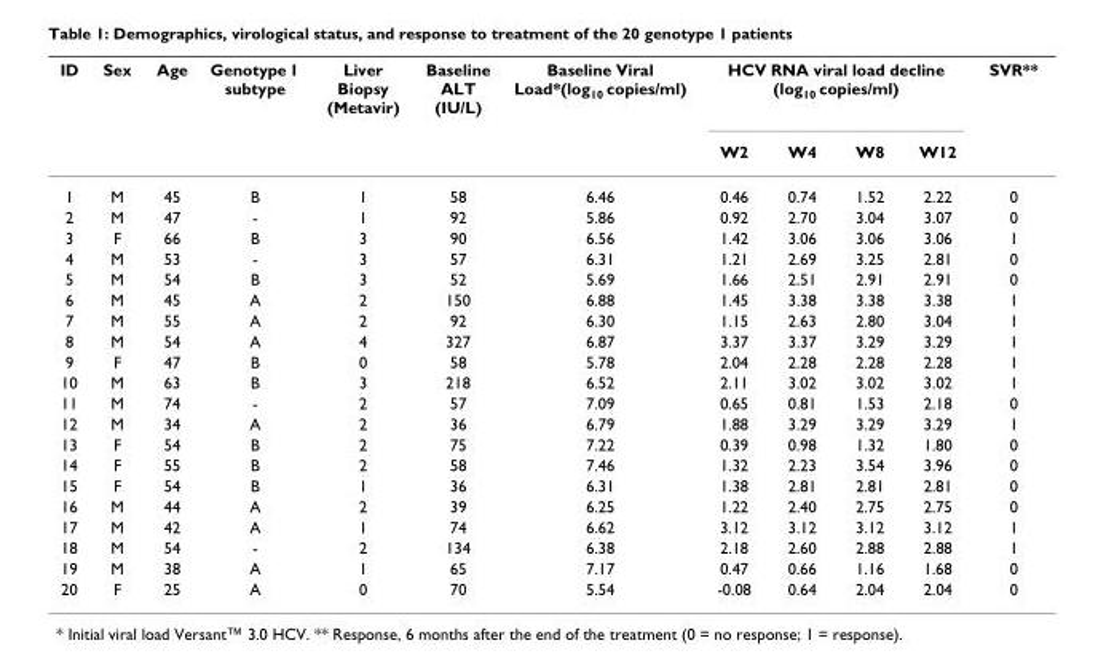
<table><thead><tr><td rowspan="2">ID</td><td rowspan="2">Sex</td><td rowspan="2">Age</td><td rowspan="2">Genotype 1 subtype</td><td rowspan="2">Liver Biopsy (Metavir)</td><td rowspan="2">Baseline ALT (IU/L)</td><td rowspan="2">Baseline Viral Load*(log10 copies/ml)</td><td colspan="4">HCV RNA viral load decline (log10 copies/ml)</td><td rowspan="2">SVR**</td></tr><tr><td>W2</td><td>W4</td><td>W8</td><td>W12</td></tr></thead><tbody><tr><td>1</td><td>M</td><td>45</td><td>B</td><td>1</td><td>58</td><td>6.46</td><td>0.46</td><td>0.74</td><td>1.52</td><td>2.22</td><td>0</td></tr><tr><td>2</td><td>M</td><td>47</td><td>-</td><td>1</td><td>92</td><td>5.86</td><td>0.92</td><td>2.70</td><td>3.04</td><td>3.07</td><td>0</td></tr><tr><td>3</td><td>F</td><td>66</td><td>B</td><td>3</td><td>90</td><td>6.56</td><td>1.42</td><td>3.06</td><td>3.06</td><td>3.06</td><td>1</td></tr><tr><td>4</td><td>M</td><td>53</td><td>-</td><td>3</td><td>57</td><td>6.31</td><td>1.21</td><td>2.69</td><td>3.25</td><td>2.81</td><td>0</td></tr><tr><td>5</td><td>M</td><td>54</td><td>B</td><td>3</td><td>52</td><td>5.69</td><td>1.66</td><td>2.51</td><td>2.91</td><td>2.91</td><td>0</td></tr><tr><td>6</td><td>M</td><td>45</td><td>A</td><td>2</td><td>150</td><td>6.88</td><td>1.45</td><td>3.38</td><td>3.38</td><td>3.38</td><td>1</td></tr><tr><td>7</td><td>M</td><td>55</td><td>A</td><td>2</td><td>92</td><td>6.30</td><td>1.15</td><td>2.63</td><td>2.80</td><td>3.04</td><td>1</td></tr><tr><td>8</td><td>M</td><td>54</td><td>A</td><td>4</td><td>327</td><td>6.87</td><td>3.37</td><td>3.37</td><td>3.29</td><td>3.29</td><td>1</td></tr><tr><td>9</td><td>F</td><td>47</td><td>B</td><td>0</td><td>58</td><td>5.78</td><td>2.04</td><td>2.28</td><td>2.28</td><td>2.28</td><td>1</td></tr><tr><td>10</td><td>M</td><td>63</td><td>B</td><td>3</td><td>218</td><td>6.52</td><td>2.11</td><td>3.02</td><td>3.02</td><td>3.02</td><td>1</td></tr><tr><td>11</td><td>M</td><td>74</td><td>-</td><td>2</td><td>57</td><td>7.09</td><td>0.65</td><td>0.81</td><td>1.53</td><td>2.18</td><td>0</td></tr><tr><td>12</td><td>M</td><td>34</td><td>A</td><td>2</td><td>36</td><td>6.79</td><td>1.88</td><td>3.29</td><td>3.29</td><td>3.29</td><td>1</td></tr><tr><td>13</td><td>F</td><td>54</td><td>B</td><td>2</td><td>75</td><td>7.22</td><td>0.39</td><td>0.98</td><td>1.32</td><td>1.80</td><td>0</td></tr><tr><td>14</td><td>F</td><td>55</td><td>B</td><td>2</td><td>58</td><td>7.46</td><td>1.32</td><td>2.23</td><td>3.54</td><td>3.96</td><td>0</td></tr><tr><td>15</td><td>F</td><td>54</td><td>B</td><td>1</td><td>36</td><td>6.31</td><td>1.38</td><td>2.81</td><td>2.81</td><td>2.81</td><td>0</td></tr><tr><td>16</td><td>M</td><td>44</td><td>A</td><td>2</td><td>39</td><td>6.25</td><td>1.22</td><td>2.40</td><td>2.75</td><td>2.75</td><td>0</td></tr><tr><td>17</td><td>M</td><td>42</td><td>A</td><td>1</td><td>74</td><td>6.62</td><td>3.12</td><td>3.12</td><td>3.12</td><td>3.12</td><td>1</td></tr><tr><td>18</td><td>M</td><td>54</td><td>-</td><td>2</td><td>134</td><td>6.38</td><td>2.18</td><td>2.60</td><td>2.88</td><td>2.88</td><td>1</td></tr><tr><td>19</td><td>M</td><td>38</td><td>A</td><td>1</td><td>65</td><td>7.17</td><td>0.47</td><td>0.66</td><td>1.16</td><td>1.68</td><td>0</td></tr><tr><td>20</td><td>F</td><td>25</td><td>A</td><td>0</td><td>70</td><td>5.54</td><td>-0.08</td><td>0.64</td><td>2.04</td><td>2.04</td><td>0</td></tr></tbody></table>